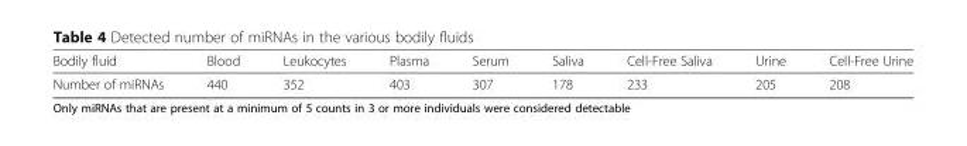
<table><thead><tr><td>Bodily fluid</td><td>Blood</td><td>Leukocytes</td><td>Plasma</td><td>Serum</td><td>Saliva</td><td>Cell-Free Saliva</td><td>Urine</td><td>Cell-Free Urine</td></tr></thead><tbody><tr><td>Number of miRNAs</td><td>440</td><td>352</td><td>403</td><td>307</td><td>178</td><td>233</td><td>205</td><td>208</td></tr></tbody></table>